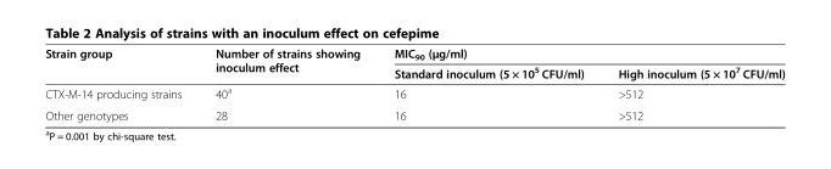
<table><thead><tr><td rowspan="2">Strain group</td><td rowspan="2">Number of strains showing inoculum effect</td><td colspan="2">MIC<sub>90</sub> (μg/ml)</td></tr><tr><td>Standard inoculum (5 × 10<sup>5</sup> CFU/ml)</td><td>High inoculum (5 × 10<sup>7</sup> CFU/ml)</td></tr></thead><tbody><tr><td>CTX-M-14 producing strains</td><td>40<sup>a</sup></td><td>16</td><td>&gt;512</td></tr><tr><td>Other genotypes</td><td>28</td><td>16</td><td>&gt;512</td></tr></tbody></table>